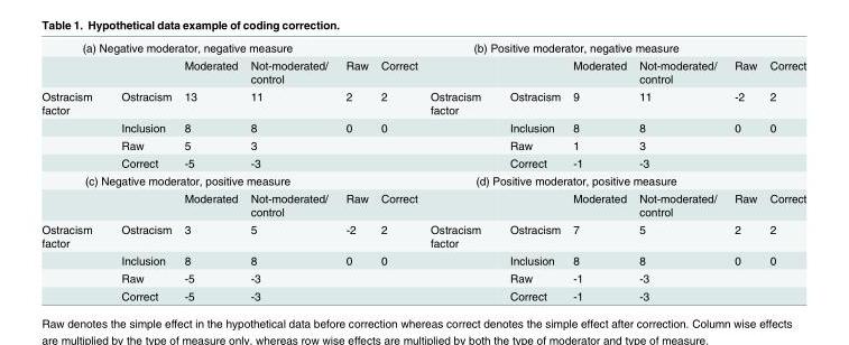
<table><tbody><tr><td colspan="4">(a) Negative moderator, negative measure</td><td></td><td></td><td colspan="4">(b) Positive moderator, negative measure</td><td></td><td></td></tr><tr><td></td><td></td><td>Moderated</td><td>Not-moderated/ control</td><td>Raw</td><td>Correct</td><td></td><td></td><td>Moderated</td><td>Not-moderated/ control</td><td>Raw</td><td>Correct</td></tr><tr><td rowspan="4">Ostracism factor</td><td>Ostracism</td><td>13</td><td>11</td><td>2</td><td>2</td><td>Ostracism factor</td><td>Ostracism</td><td>9</td><td>11</td><td>-2</td><td>2</td></tr><tr><td>Inclusion</td><td>8</td><td>8</td><td>0</td><td>0</td><td></td><td>Inclusion</td><td>8</td><td>8</td><td>0</td><td>0</td></tr><tr><td>Raw</td><td>5</td><td>3</td><td></td><td></td><td></td><td>Raw</td><td>1</td><td>3</td><td></td><td></td></tr><tr><td>Correct</td><td>-5</td><td>-3</td><td></td><td></td><td></td><td>Correct</td><td>-1</td><td>-3</td><td></td><td></td></tr><tr><td colspan="4">(c) Negative moderator, positive measure</td><td></td><td></td><td colspan="4">(d) Positive moderator, positive measure</td><td></td><td></td></tr><tr><td></td><td></td><td>Moderated</td><td>Not-moderated/ control</td><td>Raw</td><td>Correct</td><td></td><td></td><td>Moderated</td><td>Not-moderated/ control</td><td>Raw</td><td>Correct</td></tr><tr><td rowspan="4">Ostracism factor</td><td>Ostracism</td><td>3</td><td>5</td><td>-2</td><td>2</td><td>Ostracism factor</td><td>Ostracism</td><td>7</td><td>5</td><td>2</td><td>2</td></tr><tr><td>Inclusion</td><td>8</td><td>8</td><td>0</td><td>0</td><td></td><td>Inclusion</td><td>8</td><td>8</td><td>0</td><td>0</td></tr><tr><td>Raw</td><td>-5</td><td>-3</td><td></td><td></td><td></td><td>Raw</td><td>-1</td><td>-3</td><td></td><td></td></tr><tr><td>Correct</td><td>-5</td><td>-3</td><td></td><td></td><td></td><td>Correct</td><td>-1</td><td>-3</td><td></td><td></td></tr></tbody></table>